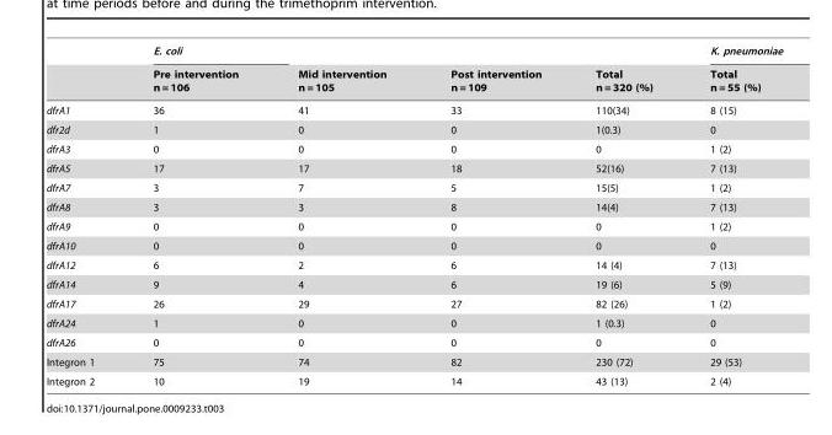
<table><thead><tr><td rowspan="2"></td><td rowspan="2">E. coli Pre intervention n = 106</td><td rowspan="2">Mid intervention n = 105</td><td rowspan="2">Post intervention n = 109</td><td rowspan="2">Total n = 320 (%)</td><td rowspan="2">K. pneumoniae Total n = 55 (%)</td></tr><tr></tr></thead><tbody><tr><td>dfrA1</td><td>36</td><td>41</td><td>33</td><td>110(34)</td><td>8 (15)</td></tr><tr><td>dfr2d</td><td>1</td><td>0</td><td>0</td><td>1(0.3)</td><td>0</td></tr><tr><td>dfrA3</td><td>0</td><td>0</td><td>0</td><td>0</td><td>1 (2)</td></tr><tr><td>dfrA5</td><td>17</td><td>17</td><td>18</td><td>52(16)</td><td>7 (13)</td></tr><tr><td>dfrA7</td><td>3</td><td>7</td><td>5</td><td>15(5)</td><td>1 (2)</td></tr><tr><td>dfrA8</td><td>3</td><td>3</td><td>8</td><td>14(4)</td><td>7 (13)</td></tr><tr><td>dfrA9</td><td>0</td><td>0</td><td>0</td><td>0</td><td>1 (2)</td></tr><tr><td>dfrA10</td><td>0</td><td>0</td><td>0</td><td>0</td><td>0</td></tr><tr><td>dfrA12</td><td>6</td><td>2</td><td>6</td><td>14 (4)</td><td>7 (13)</td></tr><tr><td>dfrA14</td><td>9</td><td>4</td><td>6</td><td>19 (6)</td><td>5 (9)</td></tr><tr><td>dfrA17</td><td>26</td><td>29</td><td>27</td><td>82 (26)</td><td>1 (2)</td></tr><tr><td>dfrA24</td><td>1</td><td>0</td><td>0</td><td>1 (0.3)</td><td>0</td></tr><tr><td>dfrA26</td><td>0</td><td>0</td><td>0</td><td>0</td><td>0</td></tr><tr><td>Integron 1</td><td>75</td><td>74</td><td>82</td><td>230 (72)</td><td>29 (53)</td></tr><tr><td>Integron 2</td><td>10</td><td>19</td><td>14</td><td>43 (13)</td><td>2 (4)</td></tr></tbody></table>